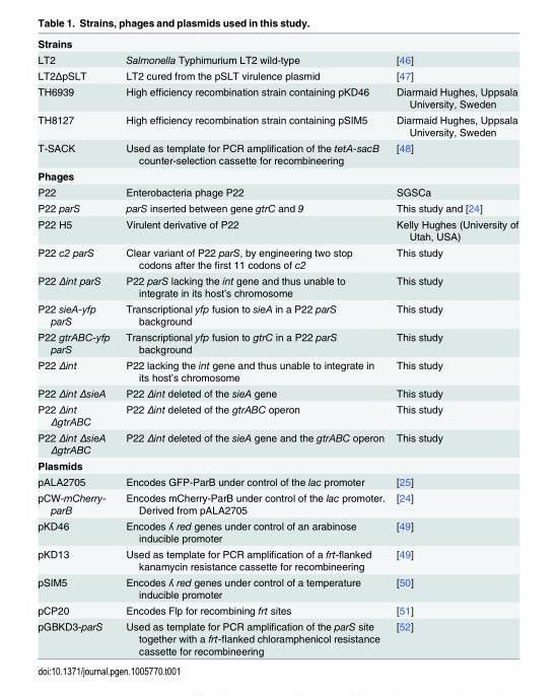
<table><tbody><tr><td colspan="3">Strains</td></tr><tr><td>LT2</td><td>Salmonella Typhimurium LT2 wild-type</td><td>[46]</td></tr><tr><td>LT2ΔpSLT</td><td>LT2 cured from the pSLT virulence plasmid</td><td>[47]</td></tr><tr><td>TH6939</td><td>High efficiency recombination strain containing pKD46</td><td>Diarmaid Hughes, Uppsala University, Sweden</td></tr><tr><td>TH8127</td><td>High efficiency recombination strain containing pSIM5</td><td>Diarmaid Hughes, Uppsala University, Sweden</td></tr><tr><td>T-SACK</td><td>Used as template for PCR amplification of the tetA-sacB counter-selection cassette for recombineering</td><td>[48]</td></tr><tr><td colspan="3">Phages</td></tr><tr><td>P22</td><td>Enterobacteria phage P22</td><td>SGSCa</td></tr><tr><td>P22 parS</td><td>parS inserted between gene gtrC and 9</td><td>This study and [24]</td></tr><tr><td>P22 H5</td><td>Virulent derivative of P22</td><td>Kelly Hughes (University of Utah, USA)</td></tr><tr><td>P22 c2 parS</td><td>Clear variant of P22 parS, by engineering two stop codons after the first 11 codons of c2</td><td>This study</td></tr><tr><td>P22 Δint parS</td><td>P22 parS lacking the int gene and thus unable to integrate in its host’s chromosome</td><td>This study</td></tr><tr><td>P22 sieA-yfp parS</td><td>Transcriptional yfp fusion to sieA in a P22 parS background</td><td>This study</td></tr><tr><td>P22 gtrABC-yfp parS</td><td>Transcriptional yfp fusion to gtrC in a P22 parS background</td><td>This study</td></tr><tr><td>P22 Δint</td><td>P22 lacking the int gene and thus unable to integrate in its host’s chromosome</td><td>This study</td></tr><tr><td>P22 Δint ΔsieA</td><td>P22 Δint deleted of the sieA gene</td><td>This study</td></tr><tr><td>P22 Δint ΔgtrABC</td><td>P22 Δint deleted of the gtrABC operon</td><td>This study</td></tr><tr><td>P22 Δint ΔsieA ΔgtrABC</td><td>P22 Δint deleted of the sieA gene and the gtrABC operon</td><td>This study</td></tr><tr><td colspan="3">Plasmids</td></tr><tr><td>pALA2705</td><td>Encodes GFP-ParB under control of the lac promoter</td><td>[25]</td></tr><tr><td>pCW-mCherry- parB</td><td>Encodes mCherry-ParB under control of the lac promoter. Derived from pALA2705</td><td>[24]</td></tr><tr><td>pKD46</td><td>Encodes ʎ red genes under control of an arabinose inducible promoter</td><td>[49]</td></tr><tr><td>pKD13</td><td>Used as template for PCR amplification of a frt-flanked kanamycin resistance cassette for recombineering</td><td>[49]</td></tr><tr><td>pSIM5</td><td>Encodes ʎ red genes under control of a temperature inducible promoter</td><td>[50]</td></tr><tr><td>pCP20</td><td>Encodes Flp for recombining frt sites</td><td>[51]</td></tr><tr><td>pGBKD3-parS</td><td>Used as template for PCR amplification of the parS site together with a frt-flanked chloramphenicol resistance cassette for recombineering</td><td>[52]</td></tr></tbody></table>